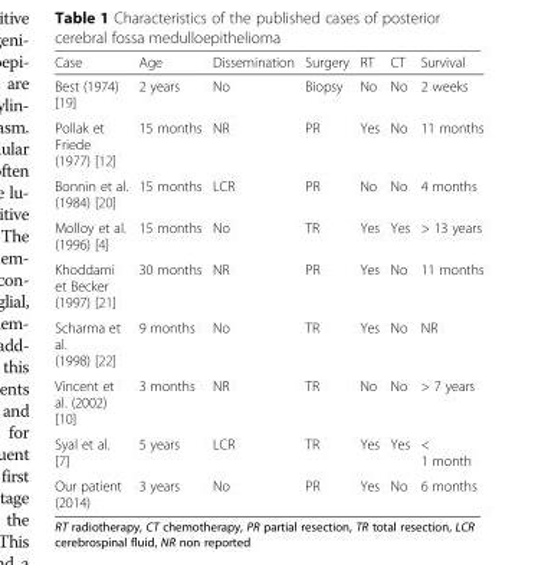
<table><thead><tr><td>Case</td><td>Age</td><td>Dissemination</td><td>Surgery</td><td>RT</td><td>CT</td><td>Survival</td></tr></thead><tbody><tr><td>Best (1974) [19]</td><td>2 years</td><td>No</td><td>Biopsy</td><td>No</td><td>No</td><td>2 weeks</td></tr><tr><td>Pollak et Friede (1977) [12]</td><td>15 months</td><td>NR</td><td>PR</td><td>Yes</td><td>No</td><td>11 months</td></tr><tr><td>Bonnin et al. (1984) [20]</td><td>15 months</td><td>LCR</td><td>PR</td><td>No</td><td>No</td><td>4 months</td></tr><tr><td>Molloy et al. (1996) [4]</td><td>15 months</td><td>No</td><td>TR</td><td>Yes</td><td>Yes</td><td>&gt; 13 years</td></tr><tr><td>Khoddami et Becker (1997) [21]</td><td>30 months</td><td>NR</td><td>PR</td><td>Yes</td><td>No</td><td>11 months</td></tr><tr><td>Scharma et al. (1998) [22]</td><td>9 months</td><td>No</td><td>TR</td><td>Yes</td><td>No</td><td>NR</td></tr><tr><td>Vincent et al. (2002) [10]</td><td>3 months</td><td>NR</td><td>TR</td><td>No</td><td>No</td><td>&gt; 7 years</td></tr><tr><td>Syal et al. [7]</td><td>5 years</td><td>LCR</td><td>TR</td><td>Yes</td><td>Yes</td><td>&lt; 1 month</td></tr><tr><td>Our patient (2014)</td><td>3 years</td><td>No</td><td>PR</td><td>Yes</td><td>No</td><td>6 months</td></tr></tbody></table>